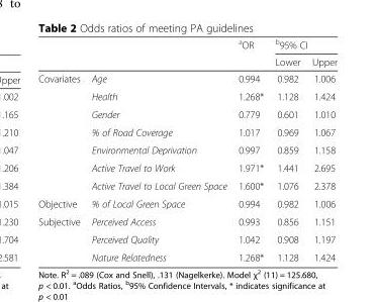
<table><thead><tr><td rowspan="2"></td><td rowspan="2"></td><td rowspan="2"><sup>a</sup>OR</td><td colspan="2"><sup>b</sup>95% CI</td></tr><tr><td>Lower</td><td>Upper</td></tr></thead><tbody><tr><td rowspan="7">Covariates</td><td>Age</td><td>0.994</td><td>0.982</td><td>1.006</td></tr><tr><td>Health</td><td>1.268*</td><td>1.128</td><td>1.424</td></tr><tr><td>Gender</td><td>0.779</td><td>0.601</td><td>1.010</td></tr><tr><td>% of Road Coverage</td><td>1.017</td><td>0.969</td><td>1.067</td></tr><tr><td>Environmental Deprivation</td><td>0.997</td><td>0.859</td><td>1.158</td></tr><tr><td>Active Travel to Work</td><td>1.971*</td><td>1.441</td><td>2.695</td></tr><tr><td>Active Travel to Local Green Space</td><td>1.600*</td><td>1.076</td><td>2.378</td></tr><tr><td>Objective</td><td>% of Local Green Space</td><td>0.994</td><td>0.982</td><td>1.006</td></tr><tr><td rowspan="3">Subjective</td><td>Perceived Access</td><td>0.993</td><td>0.856</td><td>1.151</td></tr><tr><td>Perceived Quality</td><td>1.042</td><td>0.908</td><td>1.197</td></tr><tr><td>Nature Relatedness</td><td>1.268*</td><td>1.128</td><td>1.424</td></tr></tbody></table>